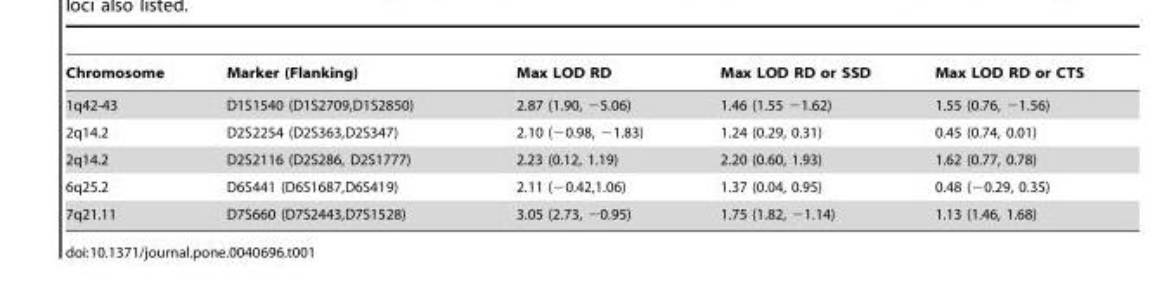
<table><thead><tr><td>Chromosome</td><td>Marker (Flanking)</td><td>Max LOD RD</td><td>Max LOD RD or SSD</td><td>Max LOD RD or CTS</td></tr></thead><tbody><tr><td>1q42-43</td><td>D1S1540 (D1S2709,D1S2850)</td><td>2.87 (1.90, −5.06)</td><td>1.46 (1.55 −1.62)</td><td>1.55 (0.76, −1.56)</td></tr><tr><td>2q14.2</td><td>D2S2254 (D2S363,D2S347)</td><td>2.10 (−0.98, −1.83)</td><td>1.24 (0.29, 0.31)</td><td>0.45 (0.74, 0.01)</td></tr><tr><td>2q14.2</td><td>D2S2116 (D2S286, D2S1777)</td><td>2.23 (0.12, 1.19)</td><td>2.20 (0.60, 1.93)</td><td>1.62 (0.77, 0.78)</td></tr><tr><td>6q25.2</td><td>D6S441 (D6S1687,D6S419)</td><td>2.11 (−0.42,1.06)</td><td>1.37 (0.04, 0.95)</td><td>0.48 (−0.29, 0.35)</td></tr><tr><td>7q21.11</td><td>D7S660 (D7S2443,D7S1528)</td><td>3.05 (2.73, −0.95)</td><td>1.75 (1.82, −1.14)</td><td>1.13 (1.46, 1.68)</td></tr></tbody></table>